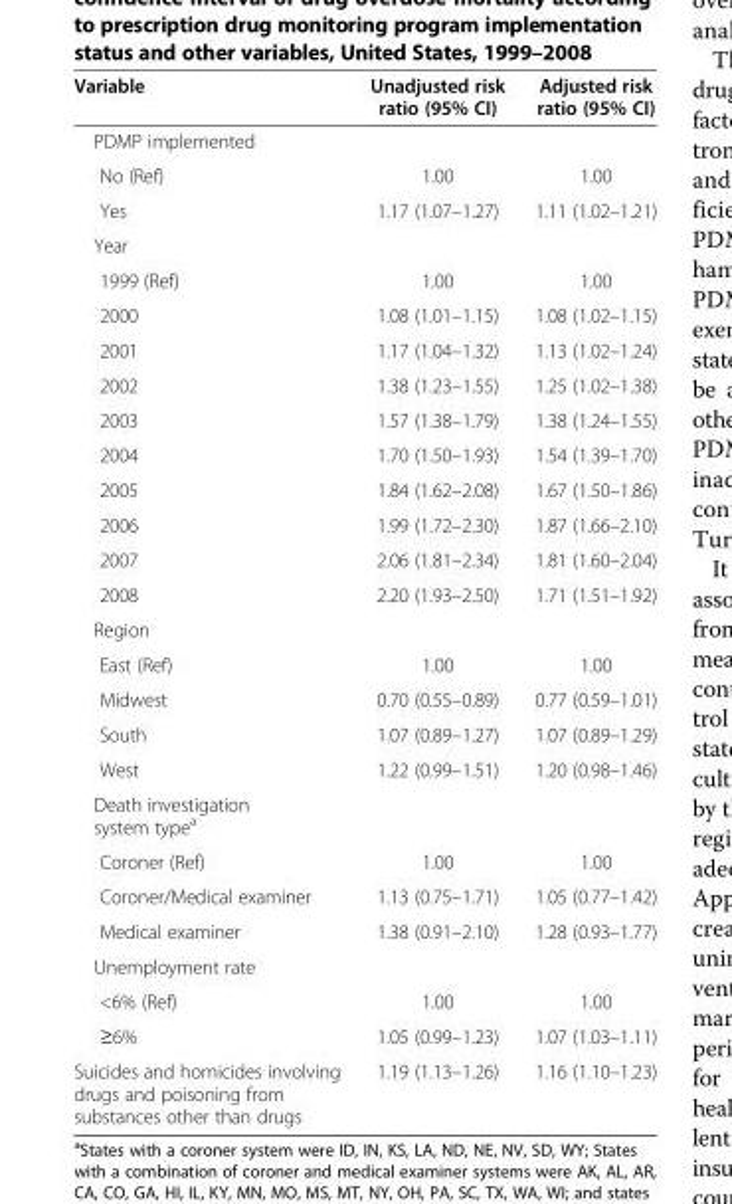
<table><thead><tr><td>Variable</td><td>Unadjusted risk ratio (95% CI)</td><td>Adjusted risk ratio (95% CI)</td></tr></thead><tbody><tr><td colspan="3">PDMP implemented</td></tr><tr><td>No (Ref)</td><td>1.00</td><td>1.00</td></tr><tr><td>Yes</td><td>1.17 (1.07–1.27)</td><td>1.11 (1.02–1.21)</td></tr><tr><td colspan="3">Year</td></tr><tr><td>1999 (Ref)</td><td>1.00</td><td>1.00</td></tr><tr><td>2000</td><td>1.08 (1.01–1.15)</td><td>1.08 (1.02–1.15)</td></tr><tr><td>2001</td><td>1.17 (1.04–1.32)</td><td>1.13 (1.02–1.24)</td></tr><tr><td>2002</td><td>1.38 (1.23–1.55)</td><td>1.25 (1.02–1.38)</td></tr><tr><td>2003</td><td>1.57 (1.38–1.79)</td><td>1.38 (1.24–1.55)</td></tr><tr><td>2004</td><td>1.70 (1.50–1.93)</td><td>1.54 (1.39–1.70)</td></tr><tr><td>2005</td><td>1.84 (1.62–2.08)</td><td>1.67 (1.50–1.86)</td></tr><tr><td>2006</td><td>1.99 (1.72–2.30)</td><td>1.87 (1.66–2.10)</td></tr><tr><td>2007</td><td>2.06 (1.81–2.34)</td><td>1.81 (1.60–2.04)</td></tr><tr><td>2008</td><td>2.20 (1.93–2.50)</td><td>1.71 (1.51–1.92)</td></tr><tr><td colspan="3">Region</td></tr><tr><td>East (Ref)</td><td>1.00</td><td>1.00</td></tr><tr><td>Midwest</td><td>0.70 (0.55–0.89)</td><td>0.77 (0.59–1.01)</td></tr><tr><td>South</td><td>1.07 (0.89–1.27)</td><td>1.07 (0.89–1.29)</td></tr><tr><td>West</td><td>1.22 (0.99–1.51)</td><td>1.20 (0.98–1.46)</td></tr><tr><td colspan="3">Death investigation system type<sup>a</sup></td></tr><tr><td>Coroner (Ref)</td><td>1.00</td><td>1.00</td></tr><tr><td>Coroner/Medical examiner</td><td>1.13 (0.75–1.71)</td><td>1.05 (0.77–1.42)</td></tr><tr><td>Medical examiner</td><td>1.38 (0.91–2.10)</td><td>1.28 (0.93–1.77)</td></tr><tr><td colspan="3">Unemployment rate</td></tr><tr><td>&lt;6% (Ref)</td><td>1.00</td><td>1.00</td></tr><tr><td>≥6%</td><td>1.05 (0.99–1.23)</td><td>1.07 (1.03–1.11)</td></tr><tr><td>Suicides and homicides involving drugs and poisoning from substances other than drugs</td><td>1.19 (1.13–1.26)</td><td>1.16 (1.10–1.23)</td></tr></tbody></table>